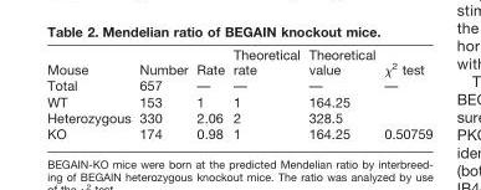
<table><thead><tr><td>Mouse</td><td>Number</td><td>Rate</td><td>Theoretical rate</td><td>Theoretical value</td><td>χ<sup>2</sup> test</td></tr></thead><tbody><tr><td>Total</td><td>657</td><td>—</td><td>—</td><td>—</td><td>—</td></tr><tr><td>WT</td><td>153</td><td>1</td><td>1</td><td>164.25</td><td></td></tr><tr><td>Heterozygous</td><td>330</td><td>2.06</td><td>2</td><td>328.5</td><td></td></tr><tr><td>KO</td><td>174</td><td>0.98</td><td>1</td><td>164.25</td><td>0.50759</td></tr></tbody></table>